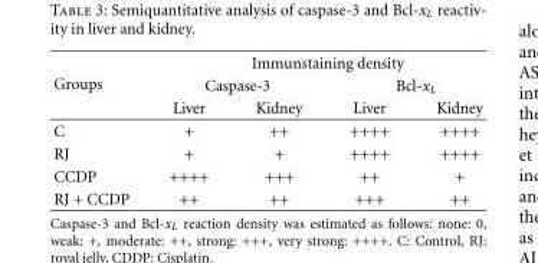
<table><tbody><tr><td rowspan="3">Groups</td><td colspan="4">Immunstaining density</td></tr><tr><td colspan="2">Caspase-3</td><td colspan="2">Bcl-x<sub>L</sub></td></tr><tr><td>Liver</td><td>Kidney</td><td>Liver</td><td>Kidney</td></tr><tr><td>C</td><td>+</td><td>++</td><td>++++</td><td>++++</td></tr><tr><td>RJ</td><td>+</td><td>+</td><td>++++</td><td>++++</td></tr><tr><td>CCDP</td><td>++++</td><td>+++</td><td>++</td><td>+</td></tr><tr><td>RJ + CCDP</td><td>++</td><td>++</td><td>+++</td><td>++</td></tr></tbody></table>